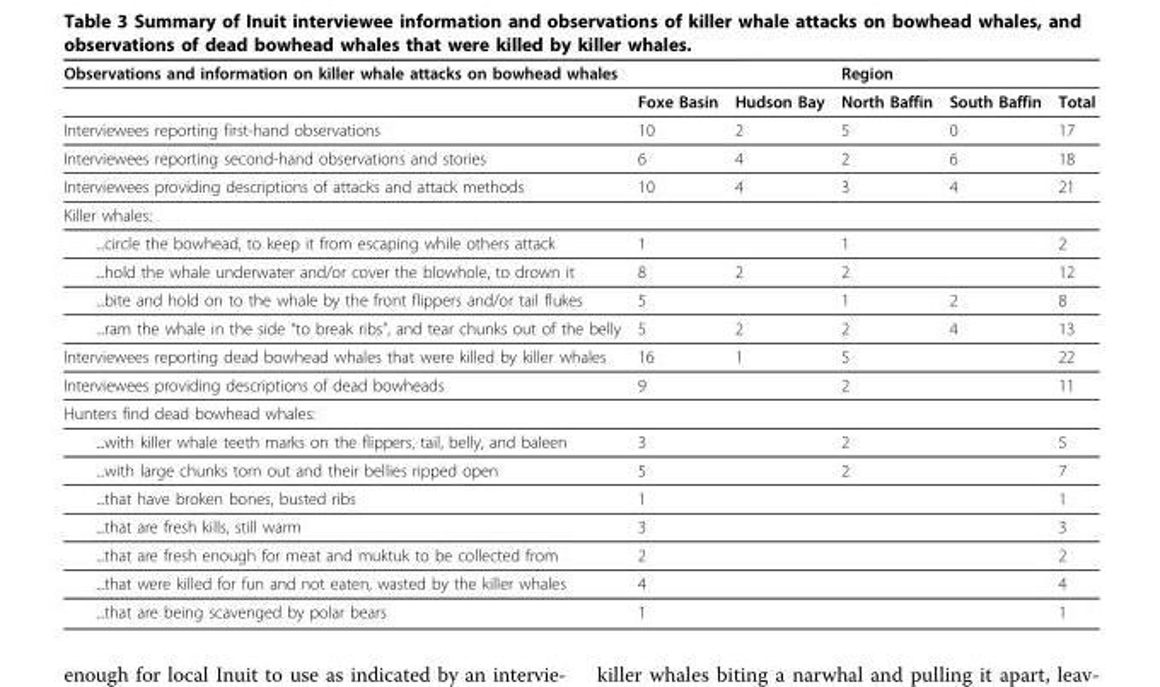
<table><thead><tr><td>Observations and information on killer whale attacks on bowhead whales</td><td></td><td></td><td>Region</td><td></td><td></td></tr></thead><tbody><tr><td></td><td>Foxe Basin</td><td>Hudson Bay</td><td>North Baffin</td><td>South Baffin</td><td>Total</td></tr><tr><td>Interviewees reporting first-hand observations</td><td>10</td><td>2</td><td>5</td><td>0</td><td>17</td></tr><tr><td>Interviewees reporting second-hand observations and stories</td><td>6</td><td>4</td><td>2</td><td>6</td><td>18</td></tr><tr><td>Interviewees providing descriptions of attacks and attack methods</td><td>10</td><td>4</td><td>3</td><td>4</td><td>21</td></tr><tr><td colspan="6">Killer whales:</td></tr><tr><td>...circle the bowhead, to keep it from escaping while others attack</td><td>1</td><td></td><td>1</td><td></td><td>2</td></tr><tr><td>...hold the whale underwater and/or cover the blowhole, to drown it</td><td>8</td><td>2</td><td>2</td><td></td><td>12</td></tr><tr><td>...bite and hold on to the whale by the front flippers and/or tail flukes</td><td>5</td><td></td><td>1</td><td>2</td><td>8</td></tr><tr><td>...ram the whale in the side “to break ribs”, and tear chunks out of the belly</td><td>5</td><td>2</td><td>2</td><td>4</td><td>13</td></tr><tr><td>Interviewees reporting dead bowhead whales that were killed by killer whales</td><td>16</td><td>1</td><td>5</td><td></td><td>22</td></tr><tr><td>Interviewees providing descriptions of dead bowheads</td><td>9</td><td></td><td>2</td><td></td><td>11</td></tr><tr><td colspan="6">Hunters find dead bowhead whales:</td></tr><tr><td>...with killer whale teeth marks on the flippers, tail, belly, and baleen</td><td>3</td><td></td><td>2</td><td></td><td>5</td></tr><tr><td>...with large chunks torn out and their bellies ripped open</td><td>5</td><td></td><td>2</td><td></td><td>7</td></tr><tr><td>...that have broken bones, busted ribs</td><td>1</td><td></td><td></td><td></td><td>1</td></tr><tr><td>...that are fresh kills, still warm</td><td>3</td><td></td><td></td><td></td><td>3</td></tr><tr><td>...that are fresh enough for meat and muktuk to be collected from</td><td>2</td><td></td><td></td><td></td><td>2</td></tr><tr><td>...that were killed for fun and not eaten, wasted by the killer whales</td><td>4</td><td></td><td></td><td></td><td>4</td></tr><tr><td>...that are being scavenged by polar bears</td><td>1</td><td></td><td></td><td></td><td>1</td></tr></tbody></table>